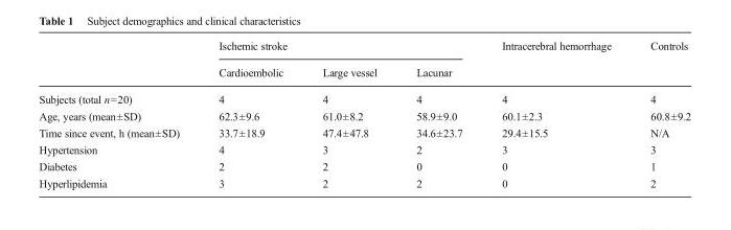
<table><thead><tr><td rowspan="2"></td><td colspan="3">Ischemic stroke</td><td rowspan="2">Intracerebral hemorrhage</td><td rowspan="2">Controls</td></tr><tr><td>Cardioembolic</td><td>Large vessel</td><td>Lacunar</td></tr></thead><tbody><tr><td>Subjects (total n=20)</td><td>4</td><td>4</td><td>4</td><td>4</td><td>4</td></tr><tr><td>Age, years (mean±SD)</td><td>62.3±9.6</td><td>61.0±8.2</td><td>58.9±9.0</td><td>60.1±2.3</td><td>60.8±9.2</td></tr><tr><td>Time since event, h (mean±SD)</td><td>33.7±18.9</td><td>47.4±47.8</td><td>34.6±23.7</td><td>29.4±15.5</td><td>N/A</td></tr><tr><td>Hypertension</td><td>4</td><td>3</td><td>2</td><td>3</td><td>3</td></tr><tr><td>Diabetes</td><td>2</td><td>2</td><td>0</td><td>0</td><td>1</td></tr><tr><td>Hyperlipidemia</td><td>3</td><td>2</td><td>2</td><td>0</td><td>2</td></tr></tbody></table>